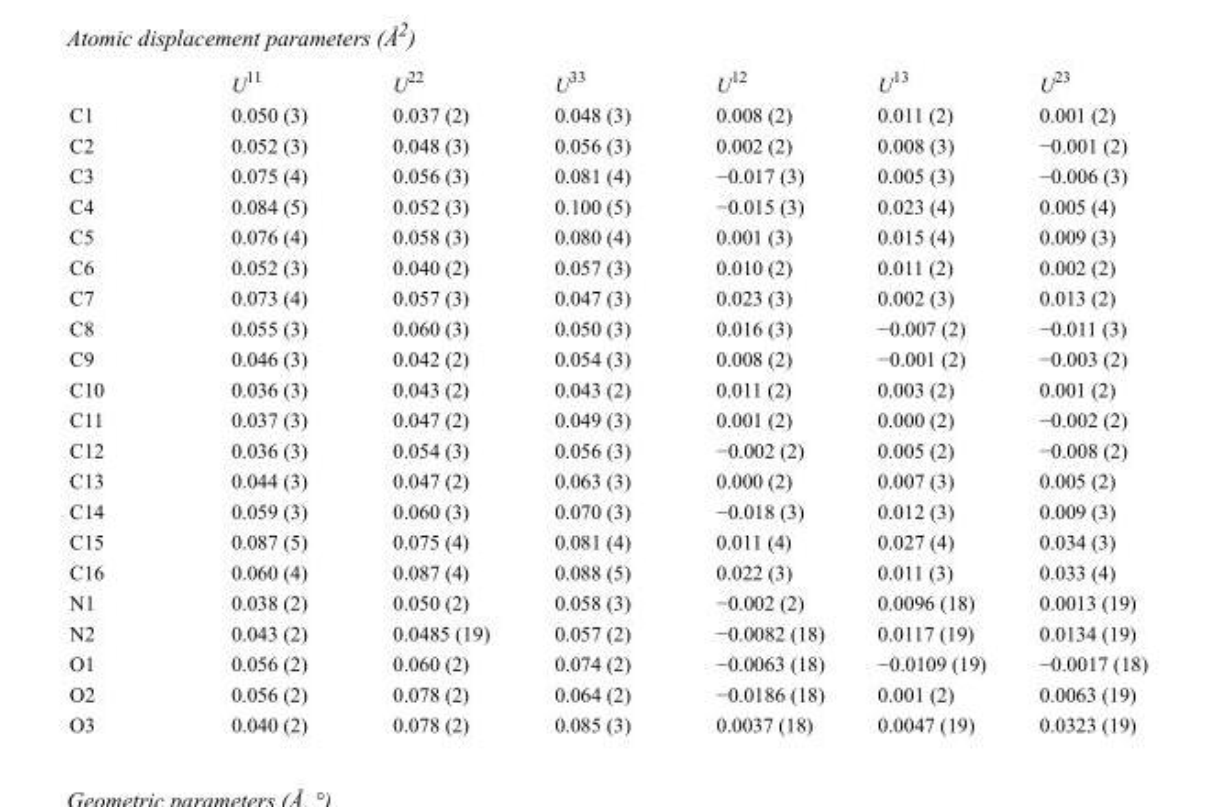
<table><thead><tr><td></td><td>U<sup>11</sup></td><td>U<sup>22</sup></td><td>U<sup>33</sup></td><td>U<sup>12</sup></td><td>U<sup>13</sup></td><td>U<sup>23</sup></td></tr></thead><tbody><tr><td>C1</td><td>0.050 (3)</td><td>0.037 (2)</td><td>0.048 (3)</td><td>0.008 (2)</td><td>0.011 (2)</td><td>0.001 (2)</td></tr><tr><td>C2</td><td>0.052 (3)</td><td>0.048 (3)</td><td>0.056 (3)</td><td>0.002 (2)</td><td>0.008 (3)</td><td>−0.001 (2)</td></tr><tr><td>C3</td><td>0.075 (4)</td><td>0.056 (3)</td><td>0.081 (4)</td><td>−0.017 (3)</td><td>0.005 (3)</td><td>−0.006 (3)</td></tr><tr><td>C4</td><td>0.084 (5)</td><td>0.052 (3)</td><td>0.100 (5)</td><td>−0.015 (3)</td><td>0.023 (4)</td><td>0.005 (4)</td></tr><tr><td>C5</td><td>0.076 (4)</td><td>0.058 (3)</td><td>0.080 (4)</td><td>0.001 (3)</td><td>0.015 (4)</td><td>0.009 (3)</td></tr><tr><td>C6</td><td>0.052 (3)</td><td>0.040 (2)</td><td>0.057 (3)</td><td>0.010 (2)</td><td>0.011 (2)</td><td>0.002 (2)</td></tr><tr><td>C7</td><td>0.073 (4)</td><td>0.057 (3)</td><td>0.047 (3)</td><td>0.023 (3)</td><td>0.002 (3)</td><td>0.013 (2)</td></tr><tr><td>C8</td><td>0.055 (3)</td><td>0.060 (3)</td><td>0.050 (3)</td><td>0.016 (3)</td><td>−0.007 (2)</td><td>−0.011 (3)</td></tr><tr><td>C9</td><td>0.046 (3)</td><td>0.042 (2)</td><td>0.054 (3)</td><td>0.008 (2)</td><td>−0.001 (2)</td><td>−0.003 (2)</td></tr><tr><td>C10</td><td>0.036 (3)</td><td>0.043 (2)</td><td>0.043 (2)</td><td>0.011 (2)</td><td>0.003 (2)</td><td>0.001 (2)</td></tr><tr><td>C11</td><td>0.037 (3)</td><td>0.047 (2)</td><td>0.049 (3)</td><td>0.001 (2)</td><td>0.000 (2)</td><td>−0.002 (2)</td></tr><tr><td>C12</td><td>0.036 (3)</td><td>0.054 (3)</td><td>0.056 (3)</td><td>−0.002 (2)</td><td>0.005 (2)</td><td>−0.008 (2)</td></tr><tr><td>C13</td><td>0.044 (3)</td><td>0.047 (2)</td><td>0.063 (3)</td><td>0.000 (2)</td><td>0.007 (3)</td><td>0.005 (2)</td></tr><tr><td>C14</td><td>0.059 (3)</td><td>0.060 (3)</td><td>0.070 (3)</td><td>−0.018 (3)</td><td>0.012 (3)</td><td>0.009 (3)</td></tr><tr><td>C15</td><td>0.087 (5)</td><td>0.075 (4)</td><td>0.081 (4)</td><td>0.011 (4)</td><td>0.027 (4)</td><td>0.034 (3)</td></tr><tr><td>C16</td><td>0.060 (4)</td><td>0.087 (4)</td><td>0.088 (5)</td><td>0.022 (3)</td><td>0.011 (3)</td><td>0.033 (4)</td></tr><tr><td>N1</td><td>0.038 (2)</td><td>0.050 (2)</td><td>0.058 (3)</td><td>−0.002 (2)</td><td>0.0096 (18)</td><td>0.0013 (19)</td></tr><tr><td>N2</td><td>0.043 (2)</td><td>0.0485 (19)</td><td>0.057 (2)</td><td>−0.0082 (18)</td><td>0.0117 (19)</td><td>0.0134 (19)</td></tr><tr><td>O1</td><td>0.056 (2)</td><td>0.060 (2)</td><td>0.074 (2)</td><td>−0.0063 (18)</td><td>−0.0109 (19)</td><td>−0.0017 (18)</td></tr><tr><td>O2</td><td>0.056 (2)</td><td>0.078 (2)</td><td>0.064 (2)</td><td>−0.0186 (18)</td><td>0.001 (2)</td><td>0.0063 (19)</td></tr><tr><td>O3</td><td>0.040 (2)</td><td>0.078 (2)</td><td>0.085 (3)</td><td>0.0037 (18)</td><td>0.0047 (19)</td><td>0.0323 (19)</td></tr></tbody></table>